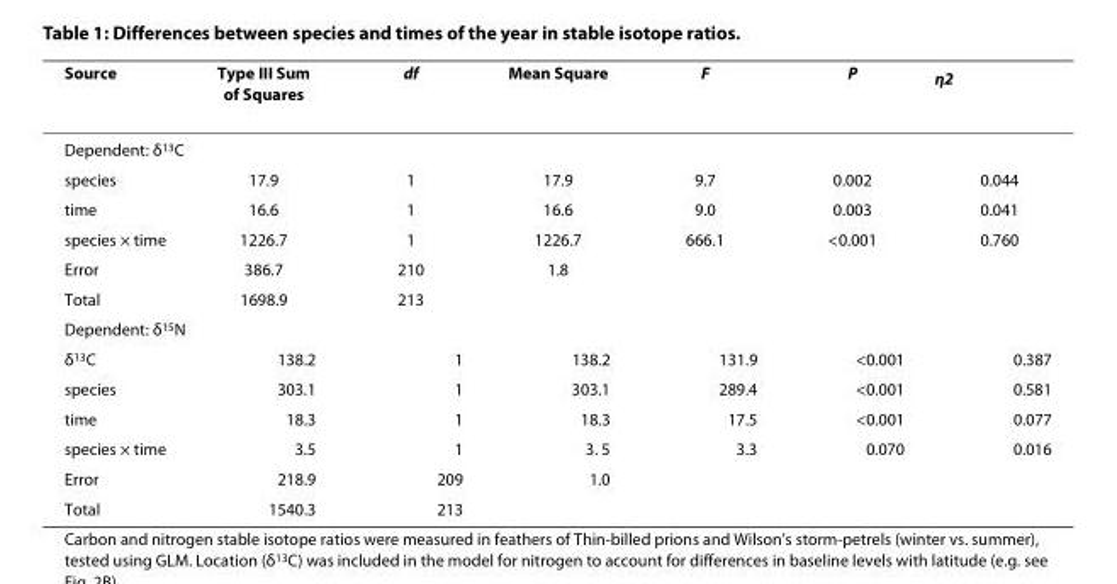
<table><thead><tr><td>Source</td><td>Type III Sum of Squares</td><td>df</td><td>Mean Square</td><td>F</td><td>P</td><td>η<sup>2</sup></td></tr></thead><tbody><tr><td colspan="7">Dependent: δ<sup>13</sup>C</td></tr><tr><td>species</td><td>17.9</td><td>1</td><td>17.9</td><td>9.7</td><td>0.002</td><td>0.044</td></tr><tr><td>time</td><td>16.6</td><td>1</td><td>16.6</td><td>9.0</td><td>0.003</td><td>0.041</td></tr><tr><td>species × time</td><td>1226.7</td><td>1</td><td>1226.7</td><td>666.1</td><td>&lt;0.001</td><td>0.760</td></tr><tr><td>Error</td><td>386.7</td><td>210</td><td>1.8</td><td></td><td></td><td></td></tr><tr><td>Total</td><td>1698.9</td><td>213</td><td></td><td></td><td></td><td></td></tr><tr><td colspan="7">Dependent: δ<sup>15</sup>N</td></tr><tr><td>δ<sup>13</sup>C</td><td>138.2</td><td>1</td><td>138.2</td><td>131.9</td><td>&lt;0.001</td><td>0.387</td></tr><tr><td>species</td><td>303.1</td><td>1</td><td>303.1</td><td>289.4</td><td>&lt;0.001</td><td>0.581</td></tr><tr><td>time</td><td>18.3</td><td>1</td><td>18.3</td><td>17.5</td><td>&lt;0.001</td><td>0.077</td></tr><tr><td>species × time</td><td>3.5</td><td>1</td><td>3. 5</td><td>3.3</td><td>0.070</td><td>0.016</td></tr><tr><td>Error</td><td>218.9</td><td>209</td><td>1.0</td><td></td><td></td><td></td></tr><tr><td>Total</td><td>1540.3</td><td>213</td><td></td><td></td><td></td><td></td></tr></tbody></table>